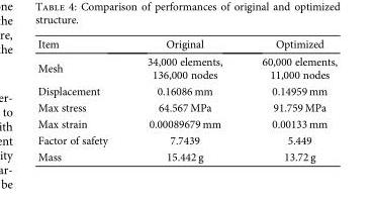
<table><thead><tr><td>Item</td><td>Original</td><td>Optimized</td></tr></thead><tbody><tr><td>Mesh</td><td>34,000 elements, 136,000 nodes</td><td>60,000 elements, 11,000 nodes</td></tr><tr><td>Displacement</td><td>0.16086 mm</td><td>0.14959 mm</td></tr><tr><td>Max stress</td><td>64.567 MPa</td><td>91.759 MPa</td></tr><tr><td>Max strain</td><td>0.00089679 mm</td><td>0.00133 mm</td></tr><tr><td>Factor of safety</td><td>7.7439</td><td>5.449</td></tr><tr><td>Mass</td><td>15.442 g</td><td>13.72 g</td></tr></tbody></table>